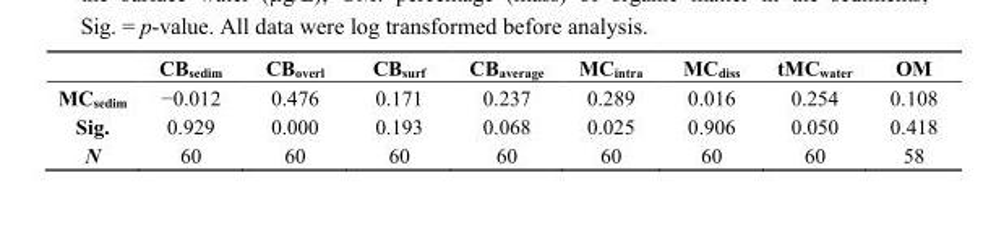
<table><thead><tr><td></td><td>CB<sub>sedim</sub></td><td>CB<sub>overl</sub></td><td>CB<sub>surf</sub></td><td>CB<sub>average</sub></td><td>MC<sub>intra</sub></td><td>MC<sub>diss</sub></td><td>tMC<sub>water</sub></td><td>OM</td></tr></thead><tbody><tr><td>MC<sub>sedim</sub></td><td>−0.012</td><td>0.476</td><td>0.171</td><td>0.237</td><td>0.289</td><td>0.016</td><td>0.254</td><td>0.108</td></tr><tr><td>Sig.</td><td>0.929</td><td>0.000</td><td>0.193</td><td>0.068</td><td>0.025</td><td>0.906</td><td>0.050</td><td>0.418</td></tr><tr><td>N</td><td>60</td><td>60</td><td>60</td><td>60</td><td>60</td><td>60</td><td>60</td><td>58</td></tr></tbody></table>